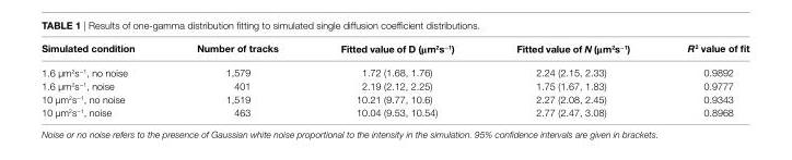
<table><thead><tr><td>simulated condition</td><td>number of tracks</td><td>Fitted value of D (μm<sup>2</sup>s<sup>−1)</sup></td><td>Fitted value of N (μm<sup>2</sup>s<sup>−1)</sup></td><td>R<sup>2</sup> value of fit</td></tr></thead><tbody><tr><td>1.6 µm<sup>2</sup>s<sup>−1</sup>, no noise</td><td>1,579</td><td>1.72 (1.68, 1.76)</td><td>2.24 (2.15, 2.33)</td><td>0.9892</td></tr><tr><td>1.6 µm<sup>2</sup>s<sup>−1</sup>, noise</td><td>401</td><td>2.19 (2.12, 2.25)</td><td>1.75 (1.67, 1.83)</td><td>0.9777</td></tr><tr><td>10 µm<sup>2</sup>s<sup>−1</sup>, no noise</td><td>1,519</td><td>10.21 (9.77, 10.6)</td><td>2.27 (2.08, 2.45)</td><td>0.9343</td></tr><tr><td>10 µm<sup>2</sup>s<sup>−1</sup>, noise</td><td>463</td><td>10.04 (9.53, 10.54)</td><td>2.77 (2.47, 3.08)</td><td>0.8968</td></tr></tbody></table>